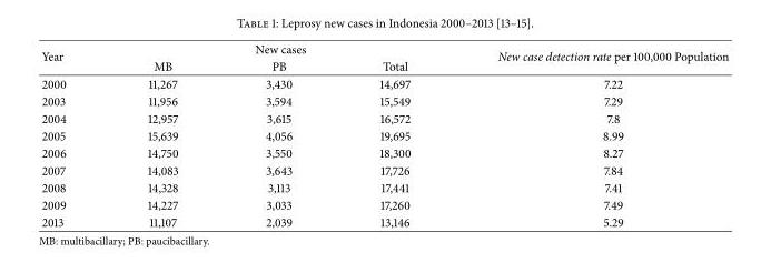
<table><thead><tr><td rowspan="2">Year</td><td colspan="3">New cases</td><td rowspan="2">New case detection rate per 100,000 Population</td></tr><tr><td>MB</td><td>PB</td><td>Total</td></tr></thead><tbody><tr><td>2000</td><td>11,267</td><td>3,430</td><td>14,697</td><td>7.22</td></tr><tr><td>2003</td><td>11,956</td><td>3,594</td><td>15,549</td><td>7.29</td></tr><tr><td>2004</td><td>12,957</td><td>3,615</td><td>16,572</td><td>7.8</td></tr><tr><td>2005</td><td>15,639</td><td>4,056</td><td>19,695</td><td>8.99</td></tr><tr><td>2006</td><td>14,750</td><td>3,550</td><td>18,300</td><td>8.27</td></tr><tr><td>2007</td><td>14,083</td><td>3,643</td><td>17,726</td><td>7.84</td></tr><tr><td>2008</td><td>14,328</td><td>3,113</td><td>17,441</td><td>7.41</td></tr><tr><td>2009</td><td>14,227</td><td>3,033</td><td>17,260</td><td>7.49</td></tr><tr><td>2013</td><td>11,107</td><td>2,039</td><td>13,146</td><td>5.29</td></tr></tbody></table>